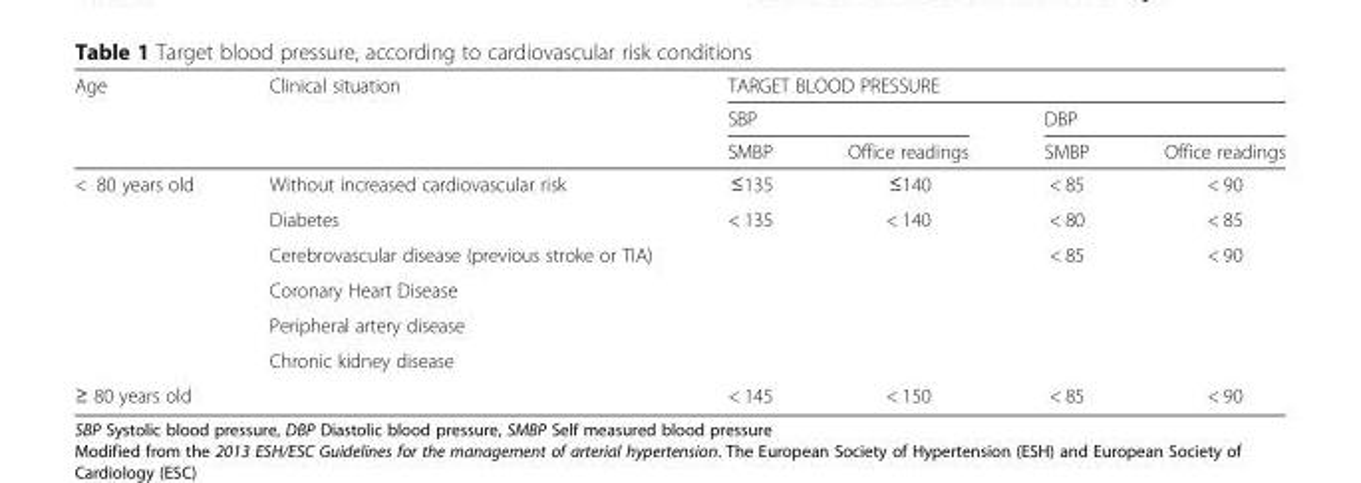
<table><thead><tr><td rowspan="3">Age</td><td rowspan="3">Clinical situation</td><td colspan="4">TARGET BLOOD PRESSURE</td></tr><tr><td colspan="2">SBP</td><td colspan="2">DBP</td></tr><tr><td>SMBP</td><td>Office readings</td><td>SMBP</td><td>Office readings</td></tr></thead><tbody><tr><td rowspan="6">&lt; 80 years old</td><td>Without increased cardiovascular risk</td><td>≤135</td><td>≤140</td><td>&lt; 85</td><td>&lt; 90</td></tr><tr><td>Diabetes</td><td rowspan="5">&lt; 135</td><td rowspan="5">&lt; 140</td><td>&lt; 80</td><td>&lt; 85</td></tr><tr><td>Cerebrovascular disease (previous stroke or TIA)</td><td rowspan="4">&lt; 85</td><td rowspan="4">&lt; 90</td></tr><tr><td>Coronary Heart Disease</td></tr><tr><td>Peripheral artery disease</td></tr><tr><td>Chronic kidney disease</td></tr><tr><td colspan="2">≥ 80 years old</td><td>&lt; 145</td><td>&lt; 150</td><td>&lt; 85</td><td>&lt; 90</td></tr></tbody></table>